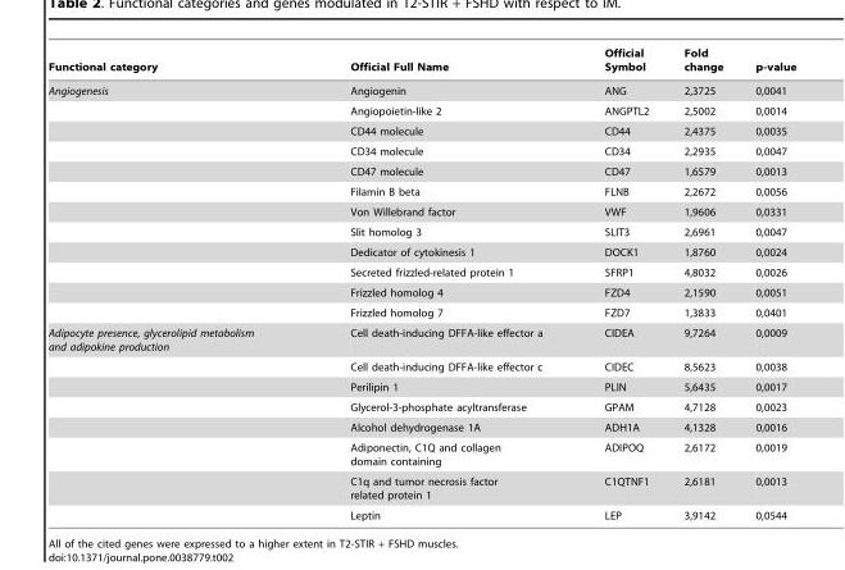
<table><thead><tr><td>Functional category</td><td>Official Full Name</td><td>Official Symbol</td><td>Fold change</td><td>p-value</td></tr></thead><tbody><tr><td rowspan="12">Angiogenesis</td><td>Angiogenin</td><td>ANG</td><td>2,3725</td><td>0,0041</td></tr><tr><td>Angiopoietin-like 2</td><td>ANGPTL2</td><td>2,5002</td><td>0,0014</td></tr><tr><td>CD44 molecule</td><td>CD44</td><td>2,4375</td><td>0,0035</td></tr><tr><td>CD34 molecule</td><td>CD34</td><td>2,2935</td><td>0,0047</td></tr><tr><td>CD47 molecule</td><td>CD47</td><td>1,6579</td><td>0,0013</td></tr><tr><td>Filamin B beta</td><td>FLNB</td><td>2,2672</td><td>0,0056</td></tr><tr><td>Von Willebrand factor</td><td>VWF</td><td>1,9606</td><td>0,0331</td></tr><tr><td>Slit homolog 3</td><td>SLIT3</td><td>2,6961</td><td>0,0047</td></tr><tr><td>Dedicator of cytokinesis 1</td><td>DOCK1</td><td>1,8760</td><td>0,0024</td></tr><tr><td>Secreted frizzled-related protein 1</td><td>SFRP1</td><td>4,8032</td><td>0,0026</td></tr><tr><td>Frizzled homolog 4</td><td>FZD4</td><td>2,1590</td><td>0,0051</td></tr><tr><td>Frizzled homolog 7</td><td>FZD7</td><td>1,3833</td><td>0,0401</td></tr><tr><td rowspan="8">Adipocyte presence, glycerolipid metabolism and adipokine production</td><td>Cell death-inducing DFFA-like effector a</td><td>CIDEA</td><td>9,7264</td><td>0,0009</td></tr><tr><td>Cell death-inducing DFFA-like effector c</td><td>CIDEC</td><td>8,5623</td><td>0,0038</td></tr><tr><td>Perilipin 1</td><td>PLIN</td><td>5,6435</td><td>0,0017</td></tr><tr><td>Glycerol-3-phosphate acyltransferase</td><td>GPAM</td><td>4,7128</td><td>0,0023</td></tr><tr><td>Alcohol dehydrogenase 1A</td><td>ADH1A</td><td>4,1328</td><td>0,0016</td></tr><tr><td>Adiponectin, C1Q and collagen domain containing</td><td>ADIPOQ</td><td>2,6172</td><td>0,0019</td></tr><tr><td>C1q and tumor necrosis factor related protein 1</td><td>C1QTNF1</td><td>2,6181</td><td>0,0013</td></tr><tr><td>Leptin</td><td>LEP</td><td>3,9142</td><td>0,0544</td></tr></tbody></table>